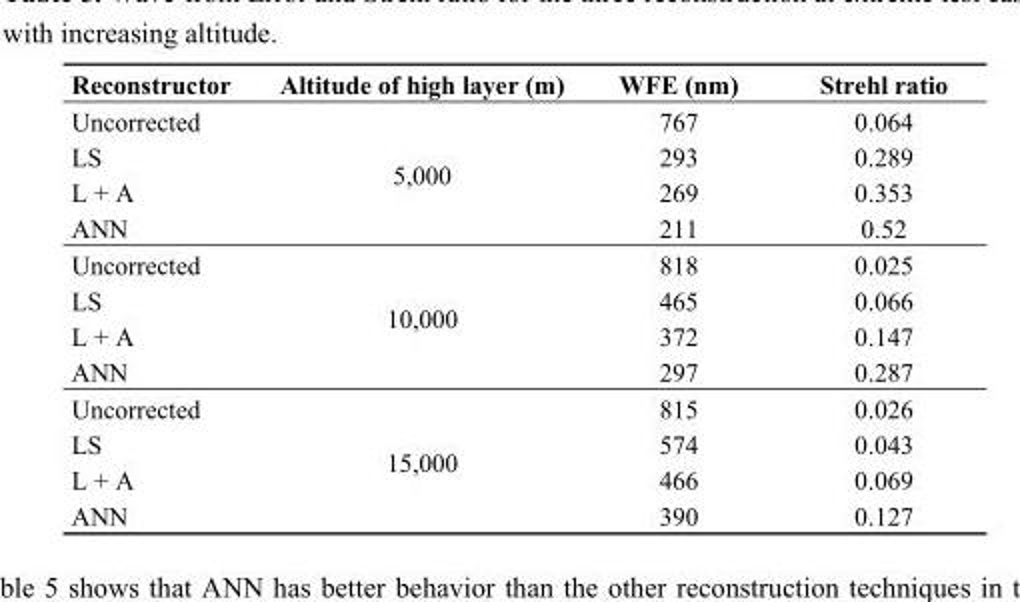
<table><thead><tr><td>Reconstructor</td><td>Altitude of high layer (m)</td><td>WFE (nm)</td><td>Strehl ratio</td></tr></thead><tbody><tr><td>Uncorrected</td><td rowspan="4">5,000</td><td>767</td><td>0.064</td></tr><tr><td>LS</td><td>293</td><td>0.289</td></tr><tr><td>L + A</td><td>269</td><td>0.353</td></tr><tr><td>ANN</td><td>211</td><td>0.52</td></tr><tr><td>Uncorrected</td><td rowspan="4">10,000</td><td>818</td><td>0.025</td></tr><tr><td>LS</td><td>465</td><td>0.066</td></tr><tr><td>L + A</td><td>372</td><td>0.147</td></tr><tr><td>ANN</td><td>297</td><td>0.287</td></tr><tr><td>Uncorrected</td><td rowspan="4">15,000</td><td>815</td><td>0.026</td></tr><tr><td>LS</td><td>574</td><td>0.043</td></tr><tr><td>L + A</td><td>466</td><td>0.069</td></tr><tr><td>ANN</td><td>390</td><td>0.127</td></tr></tbody></table>